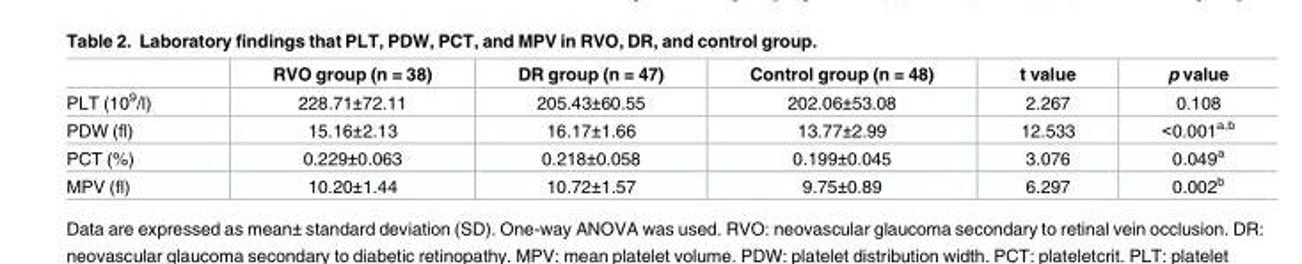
<table><thead><tr><td></td><td>RVO group (n = 38)</td><td>DR group (n = 47)</td><td>Control group (n = 48)</td><td>t value</td><td>p value</td></tr></thead><tbody><tr><td>PLT (10<sup>9</sup>/l)</td><td>228.71±72.11</td><td>205.43±60.55</td><td>202.06±53.08</td><td>2.267</td><td>0.108</td></tr><tr><td>PDW (fl)</td><td>15.16±2.13</td><td>16.17±1.66</td><td>13.77±2.99</td><td>12.533</td><td>&lt;0.001<sup>a,b</sup></td></tr><tr><td>PCT (%)</td><td>0.229±0.063</td><td>0.218±0.058</td><td>0.199±0.045</td><td>3.076</td><td>0.049<sup>a</sup></td></tr><tr><td>MPV (fl)</td><td>10.20±1.44</td><td>10.72±1.57</td><td>9.75±0.89</td><td>6.297</td><td>0.002<sup>b</sup></td></tr></tbody></table>